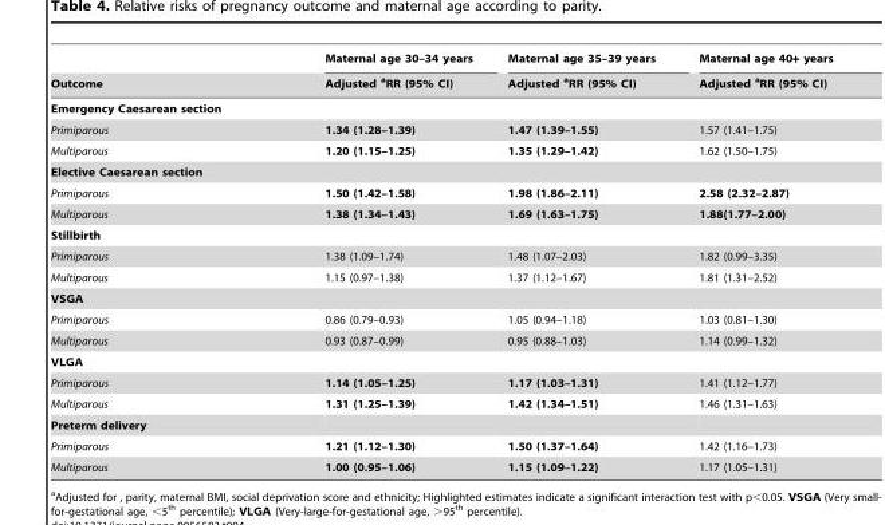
<table><thead><tr><td rowspan="2">Outcome</td><td rowspan="2">Maternal age 30–34 years Adjusted <sup>a</sup>RR (95% CI)</td><td rowspan="2">Maternal age 35–39 years Adjusted <sup>a</sup>RR (95% CI)</td><td rowspan="2">Maternal age 40+ years Adjusted <sup>a</sup>RR (95% CI)</td></tr><tr></tr></thead><tbody><tr><td colspan="4">Emergency Caesarean section</td></tr><tr><td>Primiparous</td><td>1.34 (1.28–1.39)</td><td>1.47 (1.39–1.55)</td><td>1.57 (1.41–1.75)</td></tr><tr><td>Multiparous</td><td>1.20 (1.15–1.25)</td><td>1.35 (1.29–1.42)</td><td>1.62 (1.50–1.75)</td></tr><tr><td colspan="4">Elective Caesarean section</td></tr><tr><td>Primiparous</td><td>1.50 (1.42–1.58)</td><td>1.98 (1.86–2.11)</td><td>2.58 (2.32–2.87)</td></tr><tr><td>Multiparous</td><td>1.38 (1.34–1.43)</td><td>1.69 (1.63–1.75)</td><td>1.88(1.77–2.00)</td></tr><tr><td colspan="4">Stillbirth</td></tr><tr><td>Primiparous</td><td>1.38 (1.09–1.74)</td><td>1.48 (1.07–2.03)</td><td>1.82 (0.99–3.35)</td></tr><tr><td>Multiparous</td><td>1.15 (0.97–1.38)</td><td>1.37 (1.12–1.67)</td><td>1.81 (1.31–2.52)</td></tr><tr><td colspan="4">VSGA</td></tr><tr><td>Primiparous</td><td>0.86 (0.79–0.93)</td><td>1.05 (0.94–1.18)</td><td>1.03 (0.81–1.30)</td></tr><tr><td>Multiparous</td><td>0.93 (0.87–0.99)</td><td>0.95 (0.88–1.03)</td><td>1.14 (0.99–1.32)</td></tr><tr><td colspan="4">VLGA</td></tr><tr><td>Primiparous</td><td>1.14 (1.05–1.25)</td><td>1.17 (1.03–1.31)</td><td>1.41 (1.12–1.77)</td></tr><tr><td>Multiparous</td><td>1.31 (1.25–1.39)</td><td>1.42 (1.34–1.51)</td><td>1.46 (1.31–1.63)</td></tr><tr><td colspan="4">Preterm delivery</td></tr><tr><td>Primiparous</td><td>1.21 (1.12–1.30)</td><td>1.50 (1.37–1.64)</td><td>1.42 (1.16–1.73)</td></tr><tr><td>Multiparous</td><td>1.00 (0.95–1.06)</td><td>1.15 (1.09–1.22)</td><td>1.17 (1.05–1.31)</td></tr></tbody></table>